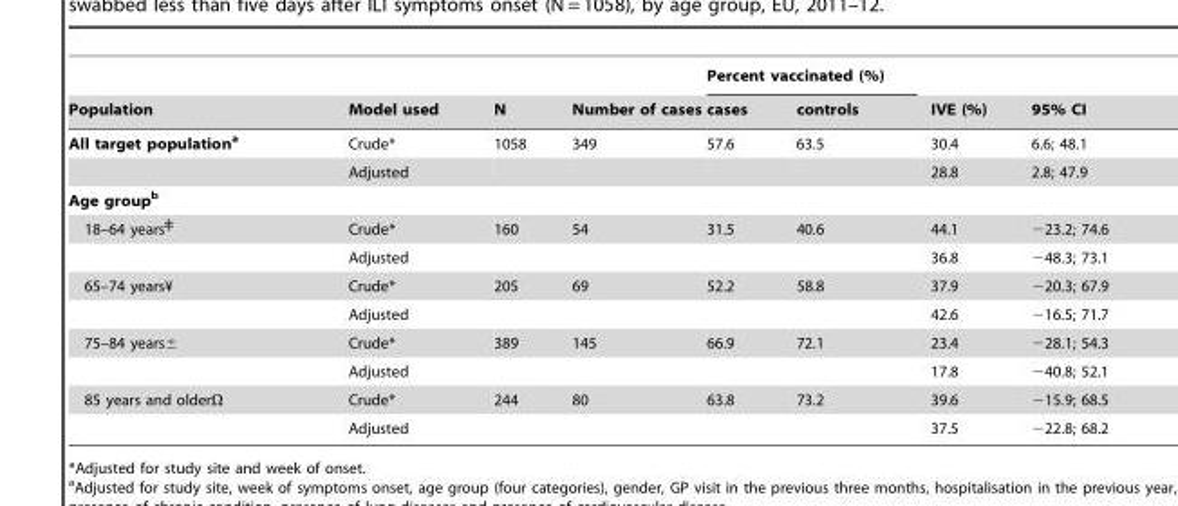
<table><thead><tr><td rowspan="2">Population</td><td rowspan="2">Model used</td><td rowspan="2">N</td><td rowspan="2">Number of cases</td><td colspan="2">Percent vaccinated (%)</td><td rowspan="2">IVE (%)</td><td rowspan="2">95% CI</td></tr><tr><td>cases</td><td>controls</td></tr></thead><tbody><tr><td rowspan="2">All target populationa</td><td>Crude*</td><td>1058</td><td>349</td><td>57.6</td><td>63.5</td><td>30.4</td><td>6.6; 48.1</td></tr><tr><td>Adjusted</td><td></td><td></td><td></td><td></td><td>28.8</td><td>2.8; 47.9</td></tr><tr><td colspan="8">Age groupb</td></tr><tr><td rowspan="2">18–64 years</td><td>Crude*</td><td>160</td><td>54</td><td>31.5</td><td>40.6</td><td>44.1</td><td>−23.2; 74.6</td></tr><tr><td>Adjusted</td><td></td><td></td><td></td><td></td><td>36.8</td><td>−48.3; 73.1</td></tr><tr><td rowspan="2">65–74 years¥</td><td>Crude*</td><td>205</td><td>69</td><td>52.2</td><td>58.8</td><td>37.9</td><td>−20.3; 67.9</td></tr><tr><td>Adjusted</td><td></td><td></td><td></td><td></td><td>42.6</td><td>−16.5; 71.7</td></tr><tr><td rowspan="2">75–84 years±</td><td>Crude*</td><td>389</td><td>145</td><td>66.9</td><td>72.1</td><td>23.4</td><td>−28.1; 54.3</td></tr><tr><td>Adjusted</td><td></td><td></td><td></td><td></td><td>17.8</td><td>−40.8; 52.1</td></tr><tr><td rowspan="2">85 years and olderΩ</td><td>Crude*</td><td>244</td><td>80</td><td>63.8</td><td>73.2</td><td>39.6</td><td>−15.9; 68.5</td></tr><tr><td>Adjusted</td><td></td><td></td><td></td><td></td><td>37.5</td><td>−22.8; 68.2</td></tr></tbody></table>